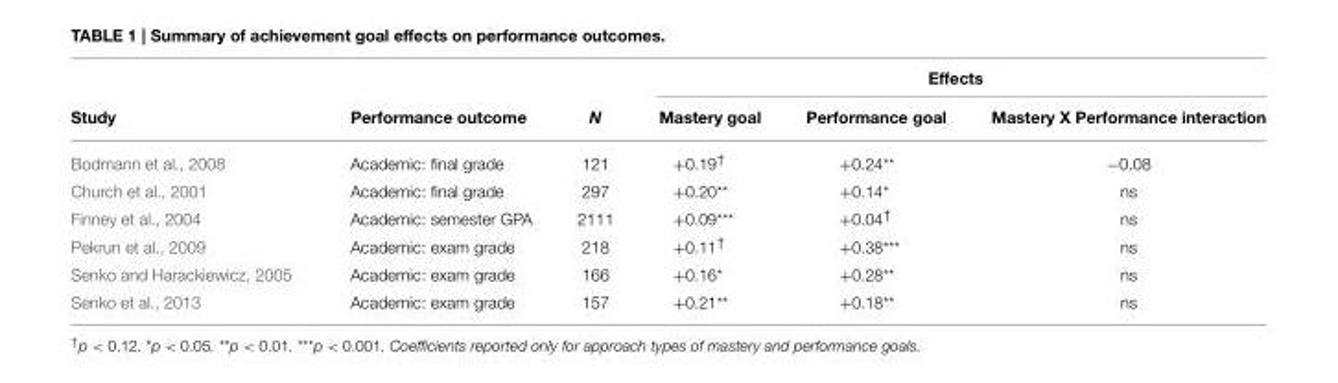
<table><thead><tr><td rowspan="2">Study</td><td rowspan="2">Performance outcome</td><td rowspan="2">N</td><td colspan="3">Effects</td></tr><tr><td>Mastery goal</td><td>Performance goal</td><td>Mastery X Performance interaction</td></tr></thead><tbody><tr><td>Bodmann et al., 2008</td><td>Academic: final grade</td><td>121</td><td>+0.19<sup>†</sup></td><td>+0.24**</td><td>−0.08</td></tr><tr><td>Church et al., 2001</td><td>Academic: final grade</td><td>297</td><td>+0.20**</td><td>+0.14*</td><td>ns</td></tr><tr><td>Finney et al., 2004</td><td>Academic: semester GPA</td><td>2111</td><td>+0.09***</td><td>+0.04<sup>†</sup></td><td>ns</td></tr><tr><td>Pekrun et al., 2009</td><td>Academic: exam grade</td><td>218</td><td>+0.11<sup>†</sup></td><td>+0.38***</td><td>ns</td></tr><tr><td>Senko and Harackiewicz, 2005</td><td>Academic: exam grade</td><td>166</td><td>+0.16*</td><td>+0.28**</td><td>ns</td></tr><tr><td>Senko et al., 2013</td><td>Academic: exam grade</td><td>157</td><td>+0.21**</td><td>+0.18**</td><td>ns</td></tr></tbody></table>